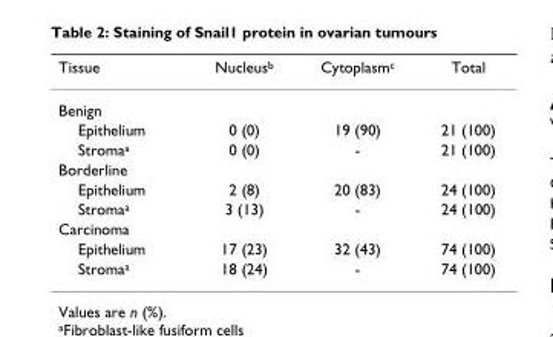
<table><thead><tr><td>Tissue</td><td>Nucleus<sup>b</sup></td><td>Cytoplasm<sup>c</sup></td><td>Total</td></tr></thead><tbody><tr><td colspan="4">Benign</td></tr><tr><td>Epithelium</td><td>0 (0)</td><td>19 (90)</td><td>21 (100)</td></tr><tr><td>Stroma<sup>a</sup></td><td>0 (0)</td><td>-</td><td>21 (100)</td></tr><tr><td colspan="4">Borderline</td></tr><tr><td>Epithelium</td><td>2 (8)</td><td>20 (83)</td><td>24 (100)</td></tr><tr><td>Stroma<sup>a</sup></td><td>3 (13)</td><td>-</td><td>24 (100)</td></tr><tr><td colspan="4">Carcinoma</td></tr><tr><td>Epithelium</td><td>17 (23)</td><td>32 (43)</td><td>74 (100)</td></tr><tr><td>Stroma<sup>a</sup></td><td>18 (24)</td><td>-</td><td>74 (100)</td></tr></tbody></table>